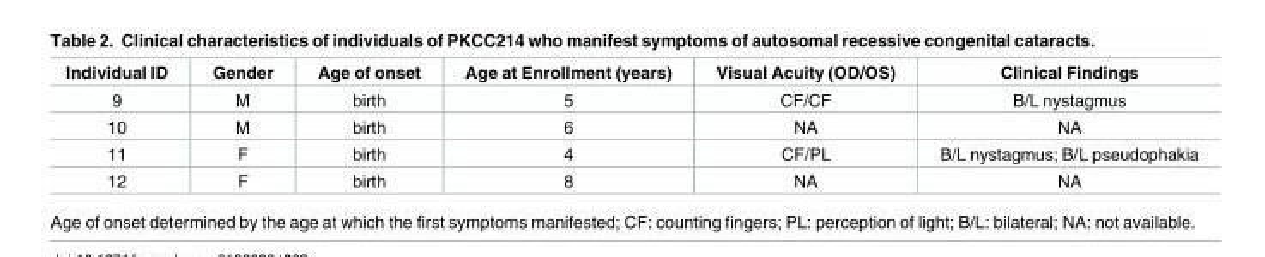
<table><thead><tr><td>Individual ID</td><td>Gender</td><td>Age of onset</td><td>Age at Enrollment (years)</td><td>Visual Acuity (OD/OS)</td><td>Clinical Findings</td></tr></thead><tbody><tr><td>9</td><td>M</td><td>birth</td><td>5</td><td>CF/CF</td><td>B/L nystagmus</td></tr><tr><td>10</td><td>M</td><td>birth</td><td>6</td><td>NA</td><td>NA</td></tr><tr><td>11</td><td>F</td><td>birth</td><td>4</td><td>CF/PL</td><td>B/L nystagmus; B/L pseudophakia</td></tr><tr><td>12</td><td>F</td><td>birth</td><td>8</td><td>NA</td><td>NA</td></tr></tbody></table>